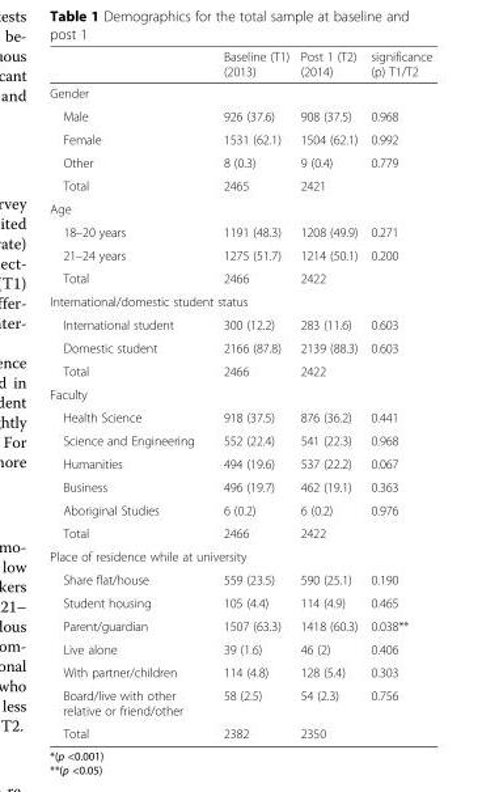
<table><thead><tr><td></td><td>Baseline (T1) (2013)</td><td>Post 1 (T2) (2014)</td><td>significance (p) T1/T2</td></tr></thead><tbody><tr><td colspan="4">Gender</td></tr><tr><td>Male</td><td>926 (37.6)</td><td>908 (37.5)</td><td>0.968</td></tr><tr><td>Female</td><td>1531 (62.1)</td><td>1504 (62.1)</td><td>0.992</td></tr><tr><td>Other</td><td>8 (0.3)</td><td>9 (0.4)</td><td>0.779</td></tr><tr><td>Total</td><td>2465</td><td>2421</td><td></td></tr><tr><td colspan="4">Age</td></tr><tr><td>18–20 years</td><td>1191 (48.3)</td><td>1208 (49.9)</td><td>0.271</td></tr><tr><td>21–24 years</td><td>1275 (51.7)</td><td>1214 (50.1)</td><td>0.200</td></tr><tr><td>Total</td><td>2466</td><td>2422</td><td></td></tr><tr><td colspan="4">International/domestic student status</td></tr><tr><td>International student</td><td>300 (12.2)</td><td>283 (11.6)</td><td>0.603</td></tr><tr><td>Domestic student</td><td>2166 (87.8)</td><td>2139 (88.3)</td><td>0.603</td></tr><tr><td>Total</td><td>2466</td><td>2422</td><td></td></tr><tr><td colspan="4">Faculty</td></tr><tr><td>Health Science</td><td>918 (37.5)</td><td>876 (36.2)</td><td>0.441</td></tr><tr><td>Science and Engineering</td><td>552 (22.4)</td><td>541 (22.3)</td><td>0.968</td></tr><tr><td>Humanities</td><td>494 (19.6)</td><td>537 (22.2)</td><td>0.067</td></tr><tr><td>Business</td><td>496 (19.7)</td><td>462 (19.1)</td><td>0.363</td></tr><tr><td>Aboriginal Studies</td><td>6 (0.2)</td><td>6 (0.2)</td><td>0.976</td></tr><tr><td>Total</td><td>2466</td><td>2422</td><td></td></tr><tr><td colspan="4">Place of residence while at university</td></tr><tr><td>Share flat/house</td><td>559 (23.5)</td><td>590 (25.1)</td><td>0.190</td></tr><tr><td>Student housing</td><td>105 (4.4)</td><td>114 (4.9)</td><td>0.465</td></tr><tr><td>Parent/guardian</td><td>1507 (63.3)</td><td>1418 (60.3)</td><td>0.038**</td></tr><tr><td>Live alone</td><td>39 (1.6)</td><td>46 (2)</td><td>0.406</td></tr><tr><td>With partner/children</td><td>114 (4.8)</td><td>128 (5.4)</td><td>0.303</td></tr><tr><td>Board/live with other relative or friend/other</td><td>58 (2.5)</td><td>54 (2.3)</td><td>0.756</td></tr><tr><td>Total</td><td>2382</td><td>2350</td><td></td></tr></tbody></table>